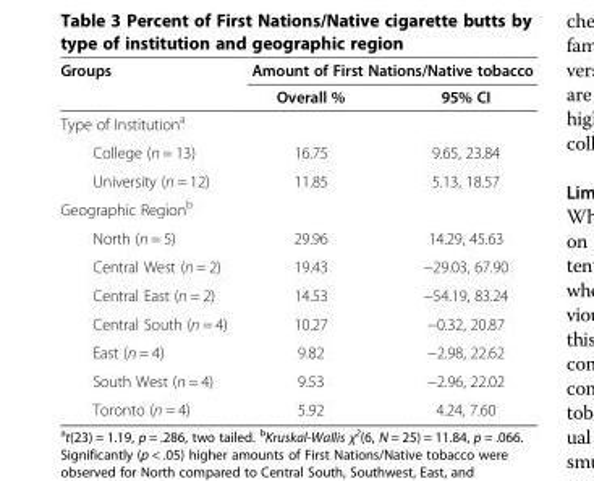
<table><thead><tr><td rowspan="2">Groups</td><td colspan="2">Amount of First Nations/Native tobacco</td></tr><tr><td>Overall %</td><td>95% CI</td></tr></thead><tbody><tr><td colspan="3">Type of Institution<sup>a</sup></td></tr><tr><td>College (n = 13)</td><td>16.75</td><td>9.65, 23.84</td></tr><tr><td>University (n = 12)</td><td>11.85</td><td>5.13, 18.57</td></tr><tr><td colspan="3">Geographic Region<sup>b</sup></td></tr><tr><td>North (n = 5)</td><td>29.96</td><td>14.29, 45.63</td></tr><tr><td>Central West (n = 2)</td><td>19.43</td><td>−29.03, 67.90</td></tr><tr><td>Central East (n = 2)</td><td>14.53</td><td>−54.19, 83.24</td></tr><tr><td>Central South (n = 4)</td><td>10.27</td><td>−0.32, 20.87</td></tr><tr><td>East (n = 4)</td><td>9.82</td><td>−2.98, 22.62</td></tr><tr><td>South West (n = 4)</td><td>9.53</td><td>−2.96, 22.02</td></tr><tr><td>Toronto (n = 4)</td><td>5.92</td><td>4.24, 7.60</td></tr></tbody></table>